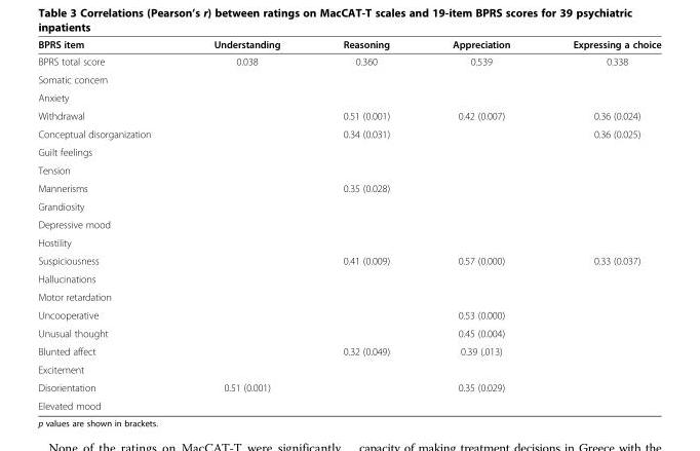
<table><thead><tr><td>BPRS item</td><td>Understanding</td><td>Reasoning</td><td>Appreciation</td><td>Expressing a choice</td></tr></thead><tbody><tr><td>BPRS total score</td><td>0.038</td><td>0.360</td><td>0.539</td><td>0.338</td></tr><tr><td colspan="5">Somatic concern</td></tr><tr><td colspan="5">Anxiety</td></tr><tr><td>Withdrawal</td><td></td><td>0.51 (0.001)</td><td>0.42 (0.007)</td><td>0.36 (0.024)</td></tr><tr><td>Conceptual disorganization</td><td></td><td>0.34 (0.031)</td><td></td><td>0.36 (0.025)</td></tr><tr><td colspan="5">Guilt feelings</td></tr><tr><td colspan="5">Tension</td></tr><tr><td>Mannerisms</td><td></td><td>0.35 (0.028)</td><td></td><td></td></tr><tr><td colspan="5">Grandiosity</td></tr><tr><td colspan="5">Depressive mood</td></tr><tr><td colspan="5">Hostility</td></tr><tr><td>Suspiciousness</td><td></td><td>0.41 (0.009)</td><td>0.57 (0.000)</td><td>0.33 (0.037)</td></tr><tr><td colspan="5">Hallucinations</td></tr><tr><td colspan="5">Motor retardation</td></tr><tr><td>Uncooperative</td><td></td><td></td><td>0.53 (0.000)</td><td></td></tr><tr><td>Unusual thought</td><td></td><td></td><td>0.45 (0.004)</td><td></td></tr><tr><td>Blunted affect</td><td></td><td>0.32 (0.049)</td><td>0.39 (.013)</td><td></td></tr><tr><td colspan="5">Excitement</td></tr><tr><td>Disorientation</td><td>0.51 (0.001)</td><td></td><td>0.35 (0.029)</td><td></td></tr><tr><td>Elevated mood</td><td></td><td></td><td></td><td></td></tr></tbody></table>